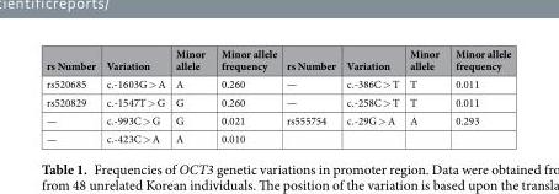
<table><thead><tr><td>rs Number</td><td>Variation</td><td>Minor allele</td><td>Minor allele frequency</td><td>rs Number</td><td>Variation</td><td>Minor allele</td><td>Minor allele frequency</td></tr></thead><tbody><tr><td>rs520685</td><td>c.-1603G &gt; A</td><td>A</td><td>0.260</td><td>—</td><td>c.-386C &gt; T</td><td>T</td><td>0.011</td></tr><tr><td>rs520829</td><td>c.-1547T &gt; G</td><td>G</td><td>0.260</td><td>—</td><td>c.-258C &gt; T</td><td>T</td><td>0.011</td></tr><tr><td>—</td><td>c.-993C &gt; G</td><td>G</td><td>0.021</td><td>rs555754</td><td>c.-29G &gt; A</td><td>A</td><td>0.293</td></tr><tr><td>—</td><td>c.-423C &gt; A</td><td>A</td><td>0.010</td><td></td><td></td><td></td><td></td></tr></tbody></table>